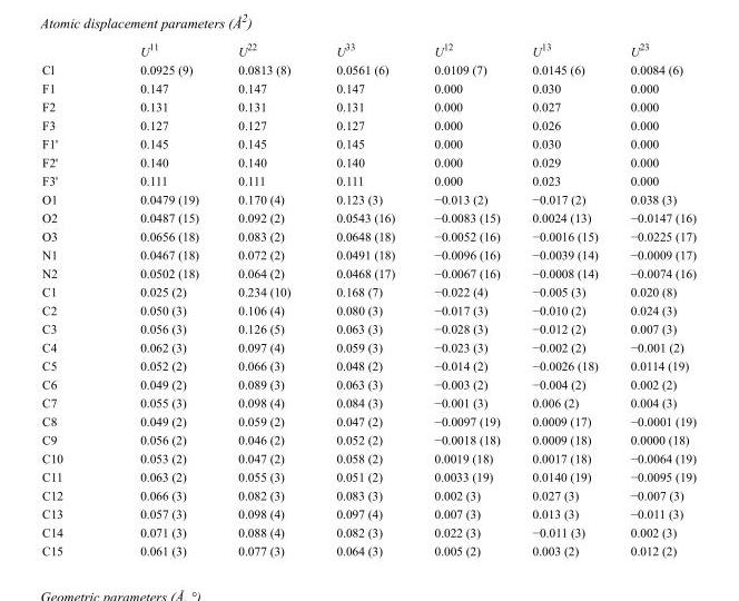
<table><thead><tr><td></td><td>U<sup>11</sup></td><td>U<sup>22</sup></td><td>U<sup>33</sup></td><td>U<sup>12</sup></td><td>U<sup>13</sup></td><td>U<sup>23</sup></td></tr></thead><tbody><tr><td>Cl</td><td>0.0925 (9)</td><td>0.0813 (8)</td><td>0.0561 (6)</td><td>0.0109 (7)</td><td>0.0145 (6)</td><td>0.0084 (6)</td></tr><tr><td>F1</td><td>0.147</td><td>0.147</td><td>0.147</td><td>0.000</td><td>0.030</td><td>0.000</td></tr><tr><td>F2</td><td>0.131</td><td>0.131</td><td>0.131</td><td>0.000</td><td>0.027</td><td>0.000</td></tr><tr><td>F3</td><td>0.127</td><td>0.127</td><td>0.127</td><td>0.000</td><td>0.026</td><td>0.000</td></tr><tr><td>F1&#x27;</td><td>0.145</td><td>0.145</td><td>0.145</td><td>0.000</td><td>0.030</td><td>0.000</td></tr><tr><td>F2&#x27;</td><td>0.140</td><td>0.140</td><td>0.140</td><td>0.000</td><td>0.029</td><td>0.000</td></tr><tr><td>F3&#x27;</td><td>0.111</td><td>0.111</td><td>0.111</td><td>0.000</td><td>0.023</td><td>0.000</td></tr><tr><td>O1</td><td>0.0479 (19)</td><td>0.170 (4)</td><td>0.123 (3)</td><td>−0.013 (2)</td><td>−0.017 (2)</td><td>0.038 (3)</td></tr><tr><td>O2</td><td>0.0487 (15)</td><td>0.092 (2)</td><td>0.0543 (16)</td><td>−0.0083 (15)</td><td>0.0024 (13)</td><td>−0.0147 (16)</td></tr><tr><td>O3</td><td>0.0656 (18)</td><td>0.083 (2)</td><td>0.0648 (18)</td><td>−0.0052 (16)</td><td>−0.0016 (15)</td><td>−0.0225 (17)</td></tr><tr><td>N1</td><td>0.0467 (18)</td><td>0.072 (2)</td><td>0.0491 (18)</td><td>−0.0096 (16)</td><td>−0.0039 (14)</td><td>−0.0009 (17)</td></tr><tr><td>N2</td><td>0.0502 (18)</td><td>0.064 (2)</td><td>0.0468 (17)</td><td>−0.0067 (16)</td><td>−0.0008 (14)</td><td>−0.0074 (16)</td></tr><tr><td>C1</td><td>0.025 (2)</td><td>0.234 (10)</td><td>0.168 (7)</td><td>−0.022 (4)</td><td>−0.005 (3)</td><td>0.020 (8)</td></tr><tr><td>C2</td><td>0.050 (3)</td><td>0.106 (4)</td><td>0.080 (3)</td><td>−0.017 (3)</td><td>−0.010 (2)</td><td>0.024 (3)</td></tr><tr><td>C3</td><td>0.056 (3)</td><td>0.126 (5)</td><td>0.063 (3)</td><td>−0.028 (3)</td><td>−0.012 (2)</td><td>0.007 (3)</td></tr><tr><td>C4</td><td>0.062 (3)</td><td>0.097 (4)</td><td>0.059 (3)</td><td>−0.023 (3)</td><td>−0.002 (2)</td><td>−0.001 (2)</td></tr><tr><td>C5</td><td>0.052 (2)</td><td>0.066 (3)</td><td>0.048 (2)</td><td>−0.014 (2)</td><td>−0.0026 (18)</td><td>0.0114 (19)</td></tr><tr><td>C6</td><td>0.049 (2)</td><td>0.089 (3)</td><td>0.063 (3)</td><td>−0.003 (2)</td><td>−0.004 (2)</td><td>0.002 (2)</td></tr><tr><td>C7</td><td>0.055 (3)</td><td>0.098 (4)</td><td>0.084 (3)</td><td>−0.001 (3)</td><td>0.006 (2)</td><td>0.004 (3)</td></tr><tr><td>C8</td><td>0.049 (2)</td><td>0.059 (2)</td><td>0.047 (2)</td><td>−0.0097 (19)</td><td>0.0009 (17)</td><td>−0.0001 (19)</td></tr><tr><td>C9</td><td>0.056 (2)</td><td>0.046 (2)</td><td>0.052 (2)</td><td>−0.0018 (18)</td><td>0.0009 (18)</td><td>0.0000 (18)</td></tr><tr><td>C10</td><td>0.053 (2)</td><td>0.047 (2)</td><td>0.058 (2)</td><td>0.0019 (18)</td><td>0.0017 (18)</td><td>−0.0064 (19)</td></tr><tr><td>C11</td><td>0.063 (2)</td><td>0.055 (3)</td><td>0.051 (2)</td><td>0.0033 (19)</td><td>0.0140 (19)</td><td>−0.0095 (19)</td></tr><tr><td>C12</td><td>0.066 (3)</td><td>0.082 (3)</td><td>0.083 (3)</td><td>0.002 (3)</td><td>0.027 (3)</td><td>−0.007 (3)</td></tr><tr><td>C13</td><td>0.057 (3)</td><td>0.098 (4)</td><td>0.097 (4)</td><td>0.007 (3)</td><td>0.013 (3)</td><td>−0.011 (3)</td></tr><tr><td>C14</td><td>0.071 (3)</td><td>0.088 (4)</td><td>0.082 (3)</td><td>0.022 (3)</td><td>−0.011 (3)</td><td>0.002 (3)</td></tr><tr><td>C15</td><td>0.061 (3)</td><td>0.077 (3)</td><td>0.064 (3)</td><td>0.005 (2)</td><td>0.003 (2)</td><td>0.012 (2)</td></tr></tbody></table>